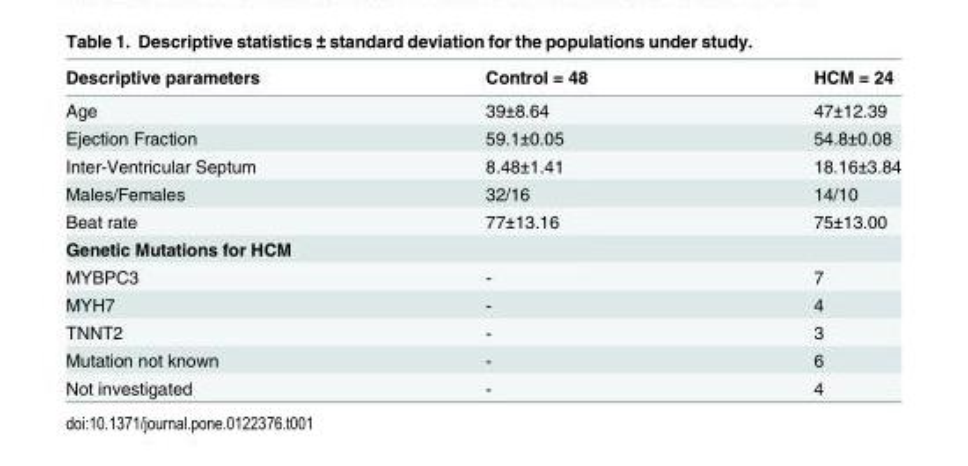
<table><thead><tr><td>Descriptive parameters</td><td>Control = 48</td><td>HCM = 24</td></tr></thead><tbody><tr><td>Age</td><td>39±8.64</td><td>47±12.39</td></tr><tr><td>Ejection Fraction</td><td>59.1±0.05</td><td>54.8±0.08</td></tr><tr><td>Inter-Ventricular Septum</td><td>8.48±1.41</td><td>18.16±3.84</td></tr><tr><td>Males/Females</td><td>32/16</td><td>14/10</td></tr><tr><td>Beat rate</td><td>77±13.16</td><td>75±13.00</td></tr><tr><td colspan="3">Genetic Mutations for HCM</td></tr><tr><td>MYBPC3</td><td>-</td><td>7</td></tr><tr><td>MYH7</td><td>-</td><td>4</td></tr><tr><td>TNNT2</td><td>-</td><td>3</td></tr><tr><td>Mutation not known</td><td>-</td><td>6</td></tr><tr><td>Not investigated</td><td>-</td><td>4</td></tr></tbody></table>